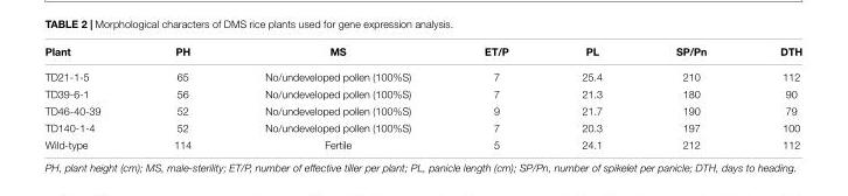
<table><thead><tr><td>Plant</td><td>PH</td><td>MS</td><td>ET/P</td><td>PL</td><td>SP/Pn</td><td>DTH</td></tr></thead><tbody><tr><td>TD21-1-5</td><td>65</td><td>No/undeveloped pollen (100%S)</td><td>7</td><td>25.4</td><td>210</td><td>112</td></tr><tr><td>TD39-6-1</td><td>56</td><td>No/undeveloped pollen (100%S)</td><td>7</td><td>21.3</td><td>180</td><td>90</td></tr><tr><td>TD46-40-39</td><td>52</td><td>No/undeveloped pollen (100%S)</td><td>9</td><td>21.7</td><td>190</td><td>79</td></tr><tr><td>TD140-1-4</td><td>52</td><td>No/undeveloped pollen (100%S)</td><td>7</td><td>20.3</td><td>197</td><td>100</td></tr><tr><td>Wild-type</td><td>114</td><td>Fertile</td><td>5</td><td>24.1</td><td>212</td><td>112</td></tr></tbody></table>